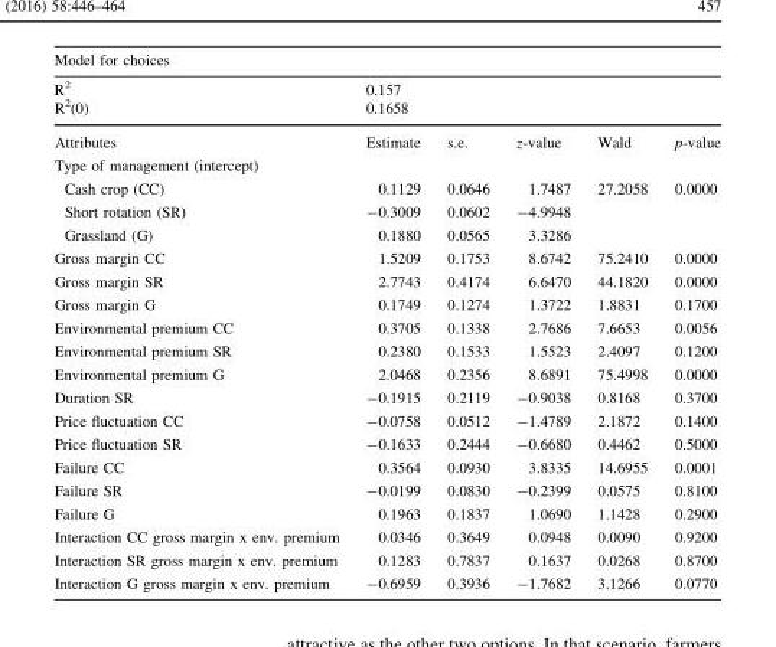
<table><thead><tr><td colspan="6">Model for choices</td></tr><tr><td rowspan="2">R<sup>2</sup> R<sup>2</sup>(0) Attributes</td><td colspan="5">0.157 0.1658</td></tr><tr><td>Estimate</td><td>s.e.</td><td>z-value</td><td>Wald</td><td>p-value</td></tr></thead><tbody><tr><td colspan="6">Type of management (intercept)</td></tr><tr><td>Cash crop (CC)</td><td>0.1129</td><td>0.0646</td><td>1.7487</td><td>27.2058</td><td>0.0000</td></tr><tr><td>Short rotation (SR)</td><td>-0.3009</td><td>0.0602</td><td>-4.9948</td><td></td><td></td></tr><tr><td>Grassland (G)</td><td>0.1880</td><td>0.0565</td><td>3.3286</td><td></td><td></td></tr><tr><td>Gross margin CC</td><td>1.5209</td><td>0.1753</td><td>8.6742</td><td>75.2410</td><td>0.0000</td></tr><tr><td>Gross margin SR</td><td>2.7743</td><td>0.4174</td><td>6.6470</td><td>44.1820</td><td>0.0000</td></tr><tr><td>Gross margin G</td><td>0.1749</td><td>0.1274</td><td>1.3722</td><td>1.8831</td><td>0.1700</td></tr><tr><td>Environmental premium CC</td><td>0.3705</td><td>0.1338</td><td>2.7686</td><td>7.6653</td><td>0.0056</td></tr><tr><td>Environmental premium SR</td><td>0.2380</td><td>0.1533</td><td>1.5523</td><td>2.4097</td><td>0.1200</td></tr><tr><td>Environmental premium G</td><td>2.0468</td><td>0.2356</td><td>8.6891</td><td>75.4998</td><td>0.0000</td></tr><tr><td>Duration SR</td><td>-0.1915</td><td>0.2119</td><td>-0.9038</td><td>0.8168</td><td>0.3700</td></tr><tr><td>Price fluctuation CC</td><td>-0.0758</td><td>0.0512</td><td>-1.4789</td><td>2.1872</td><td>0.1400</td></tr><tr><td>Price fluctuation SR</td><td>-0.1633</td><td>0.2444</td><td>-0.6680</td><td>0.4462</td><td>0.5000</td></tr><tr><td>Failure CC</td><td>0.3564</td><td>0.0930</td><td>3.8335</td><td>14.6955</td><td>0.0001</td></tr><tr><td>Failure SR</td><td>-0.0199</td><td>0.0830</td><td>-0.2399</td><td>0.0575</td><td>0.8100</td></tr><tr><td>Failure G</td><td>0.1963</td><td>0.1837</td><td>1.0690</td><td>1.1428</td><td>0.2900</td></tr><tr><td>Interaction CC gross margin x env. premium</td><td>0.0346</td><td>0.3649</td><td>0.0948</td><td>0.0090</td><td>0.9200</td></tr><tr><td>Interaction SR gross margin x env. premium</td><td>0.1283</td><td>0.7837</td><td>0.1637</td><td>0.0268</td><td>0.8700</td></tr><tr><td>Interaction G gross margin x env. premium</td><td>-0.6959</td><td>0.3936</td><td>-1.7682</td><td>3.1266</td><td>0.0770</td></tr></tbody></table>